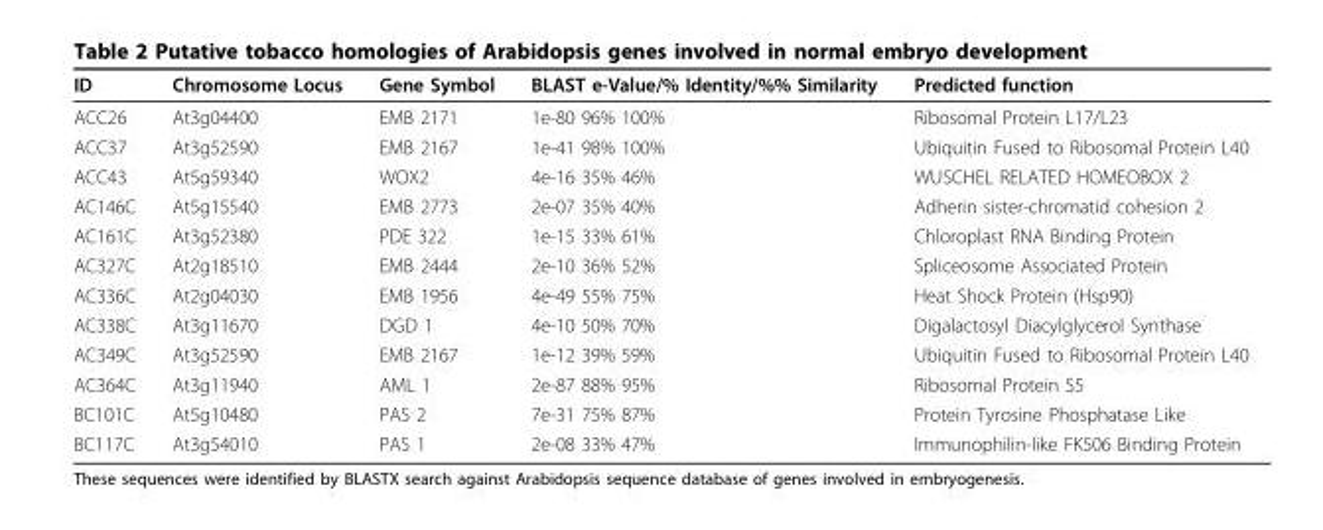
<table><thead><tr><td>ID</td><td>Chromosome Locus</td><td>Gene Symbol</td><td>BLAST e-Value/% Identity/%% Similarity</td><td>Predicted function</td></tr></thead><tbody><tr><td>ACC26</td><td>At3g04400</td><td>EMB 2171</td><td>1e-80 96% 100%</td><td>Ribosomal Protein L17/L23</td></tr><tr><td>ACC37</td><td>At3g52590</td><td>EMB 2167</td><td>1e-41 98% 100%</td><td>Ubiquitin Fused to Ribosomal Protein L40</td></tr><tr><td>ACC43</td><td>At5g59340</td><td>WOX2</td><td>4e-16 35% 46%</td><td>WUSCHEL RELATED HOMEOBOX 2</td></tr><tr><td>AC146C</td><td>At5g15540</td><td>EMB 2773</td><td>2e-07 35% 40%</td><td>Adherin sister-chromatid cohesion 2</td></tr><tr><td>AC161C</td><td>At3g52380</td><td>PDE 322</td><td>1e-15 33% 61%</td><td>Chloroplast RNA Binding Protein</td></tr><tr><td>AC327C</td><td>At2g18510</td><td>EMB 2444</td><td>2e-10 36% 52%</td><td>Spliceosome Associated Protein</td></tr><tr><td>AC336C</td><td>At2g04030</td><td>EMB 1956</td><td>4e-49 55% 75%</td><td>Heat Shock Protein (Hsp90)</td></tr><tr><td>AC338C</td><td>At3g11670</td><td>DGD 1</td><td>4e-10 50% 70%</td><td>Digalactosyl Diacylglycerol Synthase</td></tr><tr><td>AC349C</td><td>At3g52590</td><td>EMB 2167</td><td>1e-12 39% 59%</td><td>Ubiquitin Fused to Ribosomal Protein L40</td></tr><tr><td>AC364C</td><td>At3g11940</td><td>AML 1</td><td>2e-87 88% 95%</td><td>Ribosomal Protein S5</td></tr><tr><td>BC101C</td><td>At5g10480</td><td>PAS 2</td><td>7e-31 75% 87%</td><td>Protein Tyrosine Phosphatase Like</td></tr><tr><td>BC117C</td><td>At3g54010</td><td>PAS 1</td><td>2e-08 33% 47%</td><td>Immunophilin-like FK506 Binding Protein</td></tr></tbody></table>